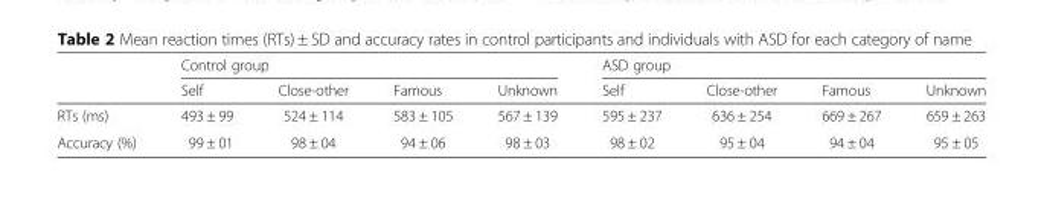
<table><thead><tr><td rowspan="2"></td><td colspan="4">Control group</td><td colspan="4">ASD group</td></tr><tr><td>Self</td><td>Close-other</td><td>Famous</td><td>Unknown</td><td>Self</td><td>Close-other</td><td>Famous</td><td>Unknown</td></tr></thead><tbody><tr><td>RTs (ms)</td><td>493 ± 99</td><td>524 ± 114</td><td>583 ± 105</td><td>567 ± 139</td><td>595 ± 237</td><td>636 ± 254</td><td>669 ± 267</td><td>659 ± 263</td></tr><tr><td>Accuracy (%)</td><td>99 ± 01</td><td>98 ± 04</td><td>94 ± 06</td><td>98 ± 03</td><td>98 ± 02</td><td>95 ± 04</td><td>94 ± 04</td><td>95 ± 05</td></tr></tbody></table>